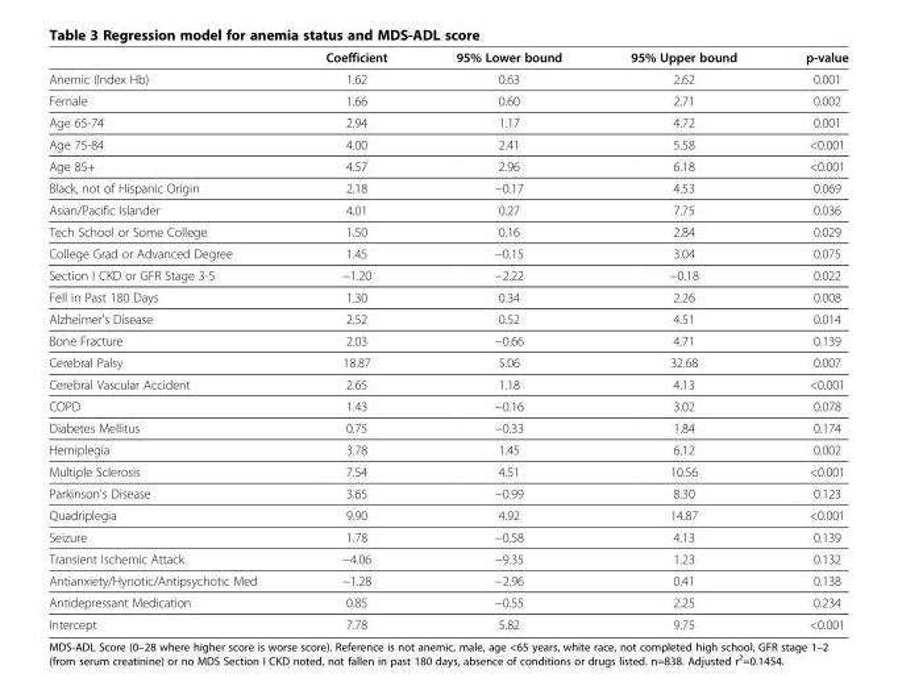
<table><thead><tr><td></td><td>Coefficient</td><td>95% Lower bound</td><td>95% Upper bound</td><td>p-value</td></tr></thead><tbody><tr><td>Anemic (Index Hb)</td><td>1.62</td><td>0.63</td><td>2.62</td><td>0.001</td></tr><tr><td>Female</td><td>1.66</td><td>0.60</td><td>2.71</td><td>0.002</td></tr><tr><td>Age 65-74</td><td>2.94</td><td>1.17</td><td>4.72</td><td>0.001</td></tr><tr><td>Age 75-84</td><td>4.00</td><td>2.41</td><td>5.58</td><td>&lt;0.001</td></tr><tr><td>Age 85+</td><td>4.57</td><td>2.96</td><td>6.18</td><td>&lt;0.001</td></tr><tr><td>Black, not of Hispanic Origin</td><td>2.18</td><td>−0.17</td><td>4.53</td><td>0.069</td></tr><tr><td>Asian/Pacific Islander</td><td>4.01</td><td>0.27</td><td>7.75</td><td>0.036</td></tr><tr><td>Tech School or Some College</td><td>1.50</td><td>0.16</td><td>2.84</td><td>0.029</td></tr><tr><td>College Grad or Advanced Degree</td><td>1.45</td><td>−0.15</td><td>3.04</td><td>0.075</td></tr><tr><td>Section I CKD or GFR Stage 3-5</td><td>−1.20</td><td>−2.22</td><td>−0.18</td><td>0.022</td></tr><tr><td>Fell in Past 180 Days</td><td>1.30</td><td>0.34</td><td>2.26</td><td>0.008</td></tr><tr><td>Alzheimer&#x27;s Disease</td><td>2.52</td><td>0.52</td><td>4.51</td><td>0.014</td></tr><tr><td>Bone Fracture</td><td>2.03</td><td>−0.66</td><td>4.71</td><td>0.139</td></tr><tr><td>Cerebral Palsy</td><td>18.87</td><td>5.06</td><td>32.68</td><td>0.007</td></tr><tr><td>Cerebral Vascular Accident</td><td>2.65</td><td>1.18</td><td>4.13</td><td>&lt;0.001</td></tr><tr><td>COPD</td><td>1.43</td><td>−0.16</td><td>3.02</td><td>0.078</td></tr><tr><td>Diabetes Mellitus</td><td>0.75</td><td>−0.33</td><td>1.84</td><td>0.174</td></tr><tr><td>Hemiplegia</td><td>3.78</td><td>1.45</td><td>6.12</td><td>0.002</td></tr><tr><td>Multiple Sclerosis</td><td>7.54</td><td>4.51</td><td>10.56</td><td>&lt;0.001</td></tr><tr><td>Parkinson&#x27;s Disease</td><td>3.65</td><td>−0.99</td><td>8.30</td><td>0.123</td></tr><tr><td>Quadriplegia</td><td>9.90</td><td>4.92</td><td>14.87</td><td>&lt;0.001</td></tr><tr><td>Seizure</td><td>1.78</td><td>−0.58</td><td>4.13</td><td>0.139</td></tr><tr><td>Transient Ischemic Attack</td><td>−4.06</td><td>−9.35</td><td>1.23</td><td>0.132</td></tr><tr><td>Antianxiety/Hynotic/Antipsychotic Med</td><td>−1.28</td><td>−2.96</td><td>0.41</td><td>0.138</td></tr><tr><td>Antidepressant Medication</td><td>0.85</td><td>−0.55</td><td>2.25</td><td>0.234</td></tr><tr><td>Intercept</td><td>7.78</td><td>5.82</td><td>9.75</td><td>&lt;0.001</td></tr></tbody></table>